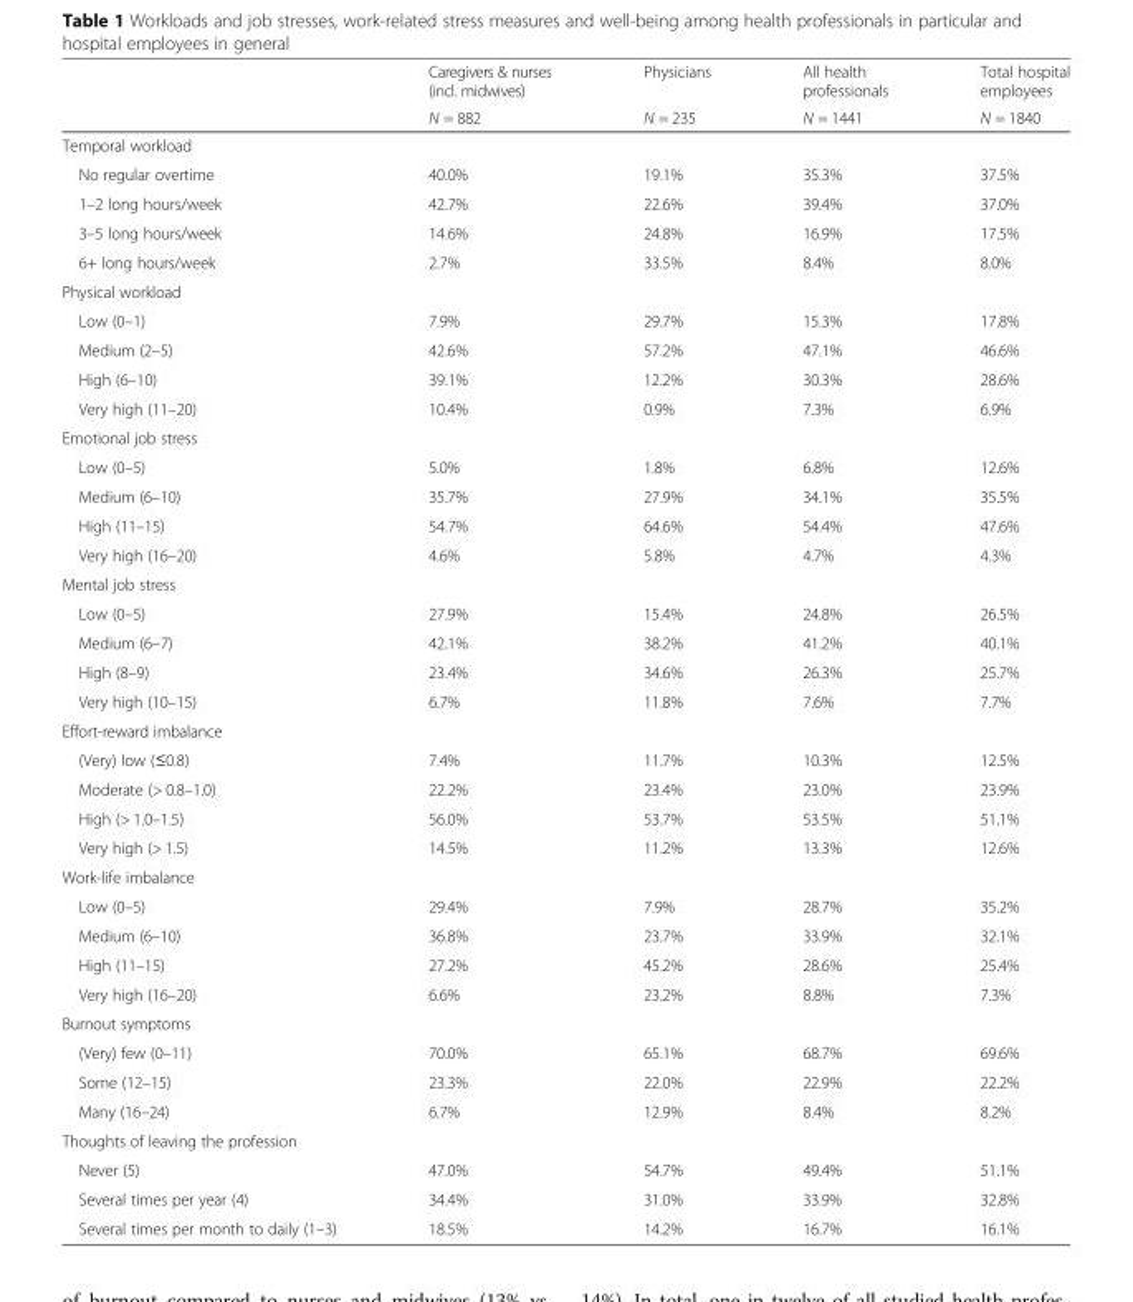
<table><thead><tr><td rowspan="2"></td><td rowspan="2">Caregivers &amp; nurses (incl. midwives) N = 882</td><td rowspan="2">Physicians N = 235</td><td rowspan="2">All health professionals N = 1441</td><td rowspan="2">Total hospital employees N = 1840</td></tr><tr></tr></thead><tbody><tr><td colspan="5">Temporal workload</td></tr><tr><td>No regular overtime</td><td>40.0%</td><td>19.1%</td><td>35.3%</td><td>37.5%</td></tr><tr><td>1–2 long hours/week</td><td>42.7%</td><td>22.6%</td><td>39.4%</td><td>37.0%</td></tr><tr><td>3–5 long hours/week</td><td>14.6%</td><td>24.8%</td><td>16.9%</td><td>17.5%</td></tr><tr><td>6+ long hours/week</td><td>2.7%</td><td>33.5%</td><td>8.4%</td><td>8.0%</td></tr><tr><td colspan="5">Physical workload</td></tr><tr><td>Low (0–1)</td><td>7.9%</td><td>29.7%</td><td>15.3%</td><td>17.8%</td></tr><tr><td>Medium (2–5)</td><td>42.6%</td><td>57.2%</td><td>47.1%</td><td>46.6%</td></tr><tr><td>High (6–10)</td><td>39.1%</td><td>12.2%</td><td>30.3%</td><td>28.6%</td></tr><tr><td>Very high (11–20)</td><td>10.4%</td><td>0.9%</td><td>7.3%</td><td>6.9%</td></tr><tr><td colspan="5">Emotional job stress</td></tr><tr><td>Low (0–5)</td><td>5.0%</td><td>1.8%</td><td>6.8%</td><td>12.6%</td></tr><tr><td>Medium (6–10)</td><td>35.7%</td><td>27.9%</td><td>34.1%</td><td>35.5%</td></tr><tr><td>High (11–15)</td><td>54.7%</td><td>64.6%</td><td>54.4%</td><td>47.6%</td></tr><tr><td>Very high (16–20)</td><td>4.6%</td><td>5.8%</td><td>4.7%</td><td>4.3%</td></tr><tr><td colspan="5">Mental job stress</td></tr><tr><td>Low (0–5)</td><td>27.9%</td><td>15.4%</td><td>24.8%</td><td>26.5%</td></tr><tr><td>Medium (6–7)</td><td>42.1%</td><td>38.2%</td><td>41.2%</td><td>40.1%</td></tr><tr><td>High (8–9)</td><td>23.4%</td><td>34.6%</td><td>26.3%</td><td>25.7%</td></tr><tr><td>Very high (10–15)</td><td>6.7%</td><td>11.8%</td><td>7.6%</td><td>7.7%</td></tr><tr><td colspan="5">Effort-reward imbalance</td></tr><tr><td>(Very) low (≤0.8)</td><td>7.4%</td><td>11.7%</td><td>10.3%</td><td>12.5%</td></tr><tr><td>Moderate (&gt; 0.8–1.0)</td><td>22.2%</td><td>23.4%</td><td>23.0%</td><td>23.9%</td></tr><tr><td>High (&gt; 1.0–1.5)</td><td>56.0%</td><td>53.7%</td><td>53.5%</td><td>51.1%</td></tr><tr><td>Very high (&gt; 1.5)</td><td>14.5%</td><td>11.2%</td><td>13.3%</td><td>12.6%</td></tr><tr><td colspan="5">Work-life imbalance</td></tr><tr><td>Low (0–5)</td><td>29.4%</td><td>7.9%</td><td>28.7%</td><td>35.2%</td></tr><tr><td>Medium (6–10)</td><td>36.8%</td><td>23.7%</td><td>33.9%</td><td>32.1%</td></tr><tr><td>High (11–15)</td><td>27.2%</td><td>45.2%</td><td>28.6%</td><td>25.4%</td></tr><tr><td>Very high (16–20)</td><td>6.6%</td><td>23.2%</td><td>8.8%</td><td>7.3%</td></tr><tr><td colspan="5">Burnout symptoms</td></tr><tr><td>(Very) few (0–11)</td><td>70.0%</td><td>65.1%</td><td>68.7%</td><td>69.6%</td></tr><tr><td>Some (12–15)</td><td>23.3%</td><td>22.0%</td><td>22.9%</td><td>22.2%</td></tr><tr><td>Many (16–24)</td><td>6.7%</td><td>12.9%</td><td>8.4%</td><td>8.2%</td></tr><tr><td colspan="5">Thoughts of leaving the profession</td></tr><tr><td>Never (5)</td><td>47.0%</td><td>54.7%</td><td>49.4%</td><td>51.1%</td></tr><tr><td>Several times per year (4)</td><td>34.4%</td><td>31.0%</td><td>33.9%</td><td>32.8%</td></tr><tr><td>Several times per month to daily (1–3)</td><td>18.5%</td><td>14.2%</td><td>16.7%</td><td>16.1%</td></tr></tbody></table>